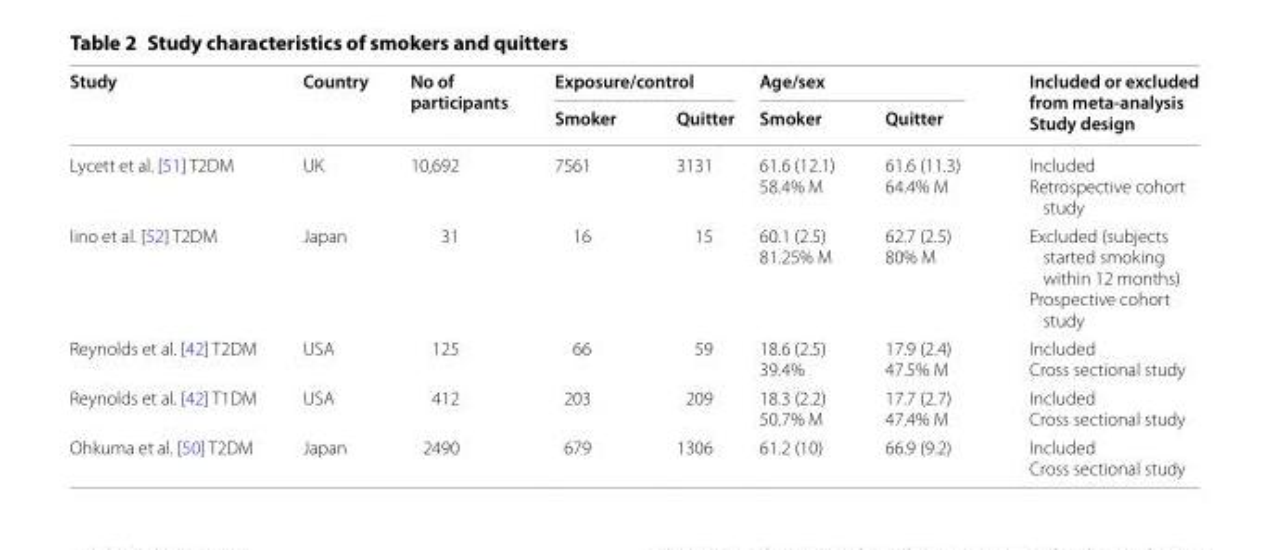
<table><thead><tr><td rowspan="2">Study</td><td rowspan="2">Country</td><td rowspan="2">No of participants</td><td colspan="2">Exposure/control</td><td colspan="2">Age/sex</td><td rowspan="2">Included or excluded from meta‑analysis Study design</td></tr><tr><td>Smoker</td><td>Quitter</td><td>Smoker</td><td>Quitter</td></tr></thead><tbody><tr><td>Lycett et al. [51] T2DM</td><td>UK</td><td>10,692</td><td>7561</td><td>3131</td><td>61.6 (12.1) 58.4% M</td><td>61.6 (11.3) 64.4% M</td><td>Included Retrospective cohort study</td></tr><tr><td>Iino et al. [52] T2DM</td><td>Japan</td><td>31</td><td>16</td><td>15</td><td>60.1 (2.5) 81.25% M</td><td>62.7 (2.5) 80% M</td><td>Excluded (subjects started smoking within 12 months) Prospective cohort study</td></tr><tr><td>Reynolds et al. [42] T2DM</td><td>USA</td><td>125</td><td>66</td><td>59</td><td>18.6 (2.5) 39.4%</td><td>17.9 (2.4) 47.5% M</td><td>Included Cross sectional study</td></tr><tr><td>Reynolds et al. [42] T1DM</td><td>USA</td><td>412</td><td>203</td><td>209</td><td>18.3 (2.2) 50.7% M</td><td>17.7 (2.7) 47.4% M</td><td>Included Cross sectional study</td></tr><tr><td>Ohkuma et al. [50] T2DM</td><td>Japan</td><td>2490</td><td>679</td><td>1306</td><td>61.2 (10)</td><td>66.9 (9.2)</td><td>Included Cross sectional study</td></tr></tbody></table>